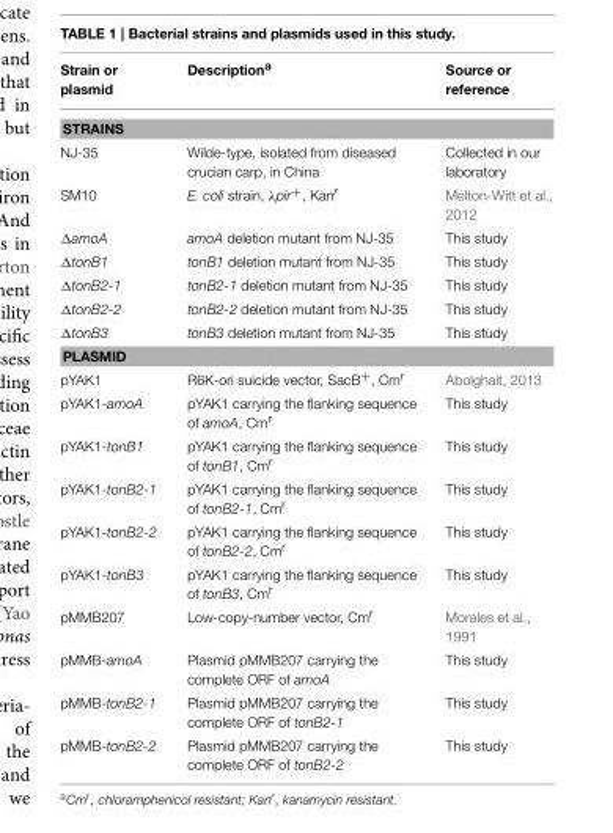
<table><thead><tr><td>Strain or plasmid</td><td>Description<sup>a</sup></td><td>Source or reference</td></tr></thead><tbody><tr><td colspan="3">STRAINS</td></tr><tr><td>NJ-35</td><td>Wilde-type, isolated from diseased crucian carp, in China</td><td>Collected in our laboratory</td></tr><tr><td>SM10</td><td>E. coli strain, λpir<sup>+</sup>, Kan<sup>r</sup></td><td>Melton-Witt et al., 2012</td></tr><tr><td>ΔamoA</td><td>amoA deletion mutant from NJ-35</td><td>This study</td></tr><tr><td>ΔtonB1</td><td>tonB1 deletion mutant from NJ-35</td><td>This study</td></tr><tr><td>ΔtonB2-1</td><td>tonB2-1 deletion mutant from NJ-35</td><td>This study</td></tr><tr><td>ΔtonB2-2</td><td>tonB2-2 deletion mutant from NJ-35</td><td>This study</td></tr><tr><td>ΔtonB3</td><td>tonB3 deletion mutant from NJ-35</td><td>This study</td></tr><tr><td colspan="3">PLASMID</td></tr><tr><td>pYAK1</td><td>R6K-ori suicide vector, SacB<sup>+</sup>, Cm<sup>r</sup></td><td>Abolghait, 2013</td></tr><tr><td>pYAK1-amoA</td><td>pYAK1 carrying the flanking sequence of amoA, Cm<sup>r</sup></td><td>This study</td></tr><tr><td>pYAK1-tonB1</td><td>pYAK1 carrying the flanking sequence of tonB1, Cm<sup>r</sup></td><td>This study</td></tr><tr><td>pYAK1-tonB2-1</td><td>pYAK1 carrying the flanking sequence of tonB2-1, Cm<sup>r</sup></td><td>This study</td></tr><tr><td>pYAK1-tonB2-2</td><td>pYAK1 carrying the flanking sequence of tonB2-2, Cm<sup>r</sup></td><td>This study</td></tr><tr><td>pYAK1-tonB3</td><td>pYAK1 carrying the flanking sequence of tonB3, Cm<sup>r</sup></td><td>This study</td></tr><tr><td>pMMB207</td><td>Low-copy-number vector, Cm<sup>r</sup></td><td>Morales et al., 1991</td></tr><tr><td>pMMB-amoA</td><td>Plasmid pMMB207 carrying the complete ORF of amoA</td><td>This study</td></tr><tr><td>pMMB-tonB2-1</td><td>Plasmid pMMB207 carrying the complete ORF of tonB2-1</td><td>This study</td></tr><tr><td>pMMB-tonB2-2</td><td>Plasmid pMMB207 carrying the complete ORF of tonB2-2</td><td>This study</td></tr></tbody></table>